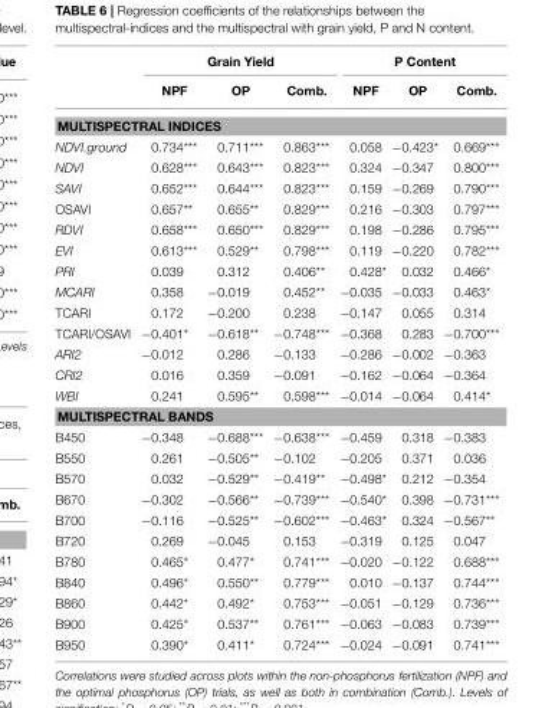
<table><thead><tr><td rowspan="2"></td><td colspan="3">Grain Yield</td><td colspan="3">P Content</td></tr><tr><td>NPF</td><td>OP</td><td>Comb.</td><td>NPF</td><td>OP</td><td>Comb.</td></tr></thead><tbody><tr><td colspan="7">MULTISPECTRAL INDICES</td></tr><tr><td>NDVI.ground</td><td>0.734***</td><td>0.711***</td><td>0.863***</td><td>0.058</td><td>−0.423*</td><td>0.669***</td></tr><tr><td>NDVI</td><td>0.628***</td><td>0.643***</td><td>0.823***</td><td>0.324</td><td>−0.347</td><td>0.800***</td></tr><tr><td>SAVI</td><td>0.652***</td><td>0.644***</td><td>0.823***</td><td>0.159</td><td>−0.269</td><td>0.790***</td></tr><tr><td>OSAVI</td><td>0.657**</td><td>0.655**</td><td>0.829***</td><td>0.216</td><td>−0.303</td><td>0.797***</td></tr><tr><td>RDVI</td><td>0.658***</td><td>0.650***</td><td>0.829***</td><td>0.198</td><td>−0.286</td><td>0.795***</td></tr><tr><td>EVI</td><td>0.613***</td><td>0.529**</td><td>0.798***</td><td>0.119</td><td>−0.220</td><td>0.782***</td></tr><tr><td>PRI</td><td>0.039</td><td>0.312</td><td>0.406**</td><td>0.428*</td><td>0.032</td><td>0.466*</td></tr><tr><td>MCARI</td><td>0.358</td><td>−0.019</td><td>0.452**</td><td>−0.035</td><td>−0.033</td><td>0.463*</td></tr><tr><td>TCARI</td><td>0.172</td><td>−0.200</td><td>0.238</td><td>−0.147</td><td>0.055</td><td>0.314</td></tr><tr><td>TCARI/OSAVI</td><td>−0.401*</td><td>−0.618**</td><td>−0.748***</td><td>−0.368</td><td>0.283</td><td>−0.700***</td></tr><tr><td>ARI2</td><td>−0.012</td><td>0.286</td><td>−0.133</td><td>−0.286</td><td>−0.002</td><td>−0.363</td></tr><tr><td>CRI2</td><td>0.016</td><td>0.359</td><td>−0.091</td><td>−0.162</td><td>−0.064</td><td>−0.364</td></tr><tr><td>WBI</td><td>0.241</td><td>0.595**</td><td>0.598***</td><td>−0.014</td><td>−0.064</td><td>0.414*</td></tr><tr><td colspan="7">MULTISPECTRAL BANDS</td></tr><tr><td>B450</td><td>−0.348</td><td>−0.688***</td><td>−0.638***</td><td>−0.459</td><td>0.318</td><td>−0.383</td></tr><tr><td>B550</td><td>0.261</td><td>−0.505**</td><td>−0.102</td><td>−0.205</td><td>0.371</td><td>0.036</td></tr><tr><td>B570</td><td>0.032</td><td>−0.529**</td><td>−0.419**</td><td>−0.498*</td><td>0.212</td><td>−0.354</td></tr><tr><td>B670</td><td>−0.302</td><td>−0.566**</td><td>−0.739***</td><td>−0.540*</td><td>0.398</td><td>−0.731***</td></tr><tr><td>B700</td><td>−0.116</td><td>−0.525**</td><td>−0.602***</td><td>−0.463*</td><td>0.324</td><td>−0.567**</td></tr><tr><td>B720</td><td>0.269</td><td>−0.045</td><td>0.153</td><td>−0.319</td><td>0.125</td><td>0.047</td></tr><tr><td>B780</td><td>0.465*</td><td>0.477*</td><td>0.741***</td><td>−0.020</td><td>−0.122</td><td>0.688***</td></tr><tr><td>B840</td><td>0.496*</td><td>0.550**</td><td>0.779***</td><td>0.010</td><td>−0.137</td><td>0.744***</td></tr><tr><td>B860</td><td>0.442*</td><td>0.492*</td><td>0.753***</td><td>−0.051</td><td>−0.129</td><td>0.736***</td></tr><tr><td>B900</td><td>0.425*</td><td>0.537**</td><td>0.761***</td><td>−0.063</td><td>−0.083</td><td>0.739***</td></tr><tr><td>B950</td><td>0.390*</td><td>0.411*</td><td>0.724***</td><td>−0.024</td><td>−0.091</td><td>0.741***</td></tr></tbody></table>